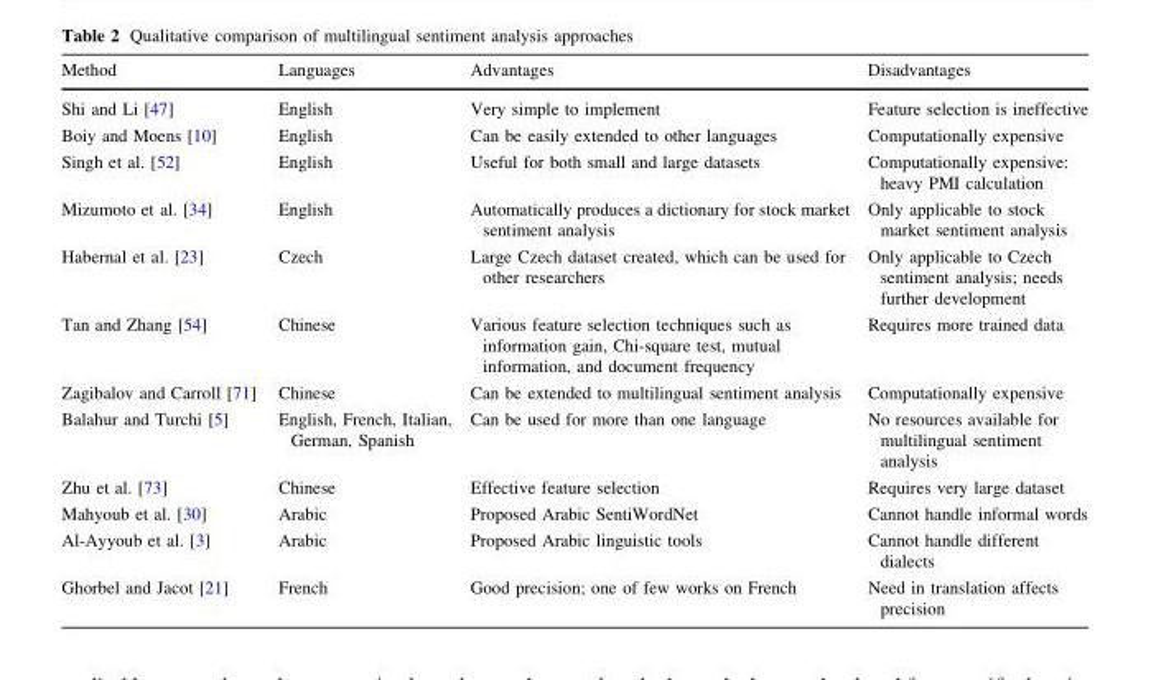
<table><thead><tr><td>Method</td><td>Languages</td><td>Advantages</td><td>Disadvantages</td></tr></thead><tbody><tr><td>Shi and Li [47]</td><td>English</td><td>Very simple to implement</td><td>Feature selection is ineffective</td></tr><tr><td>Boiy and Moens [10]</td><td>English</td><td>Can be easily extended to other languages</td><td>Computationally expensive</td></tr><tr><td>Singh et al. [52]</td><td>English</td><td>Useful for both small and large datasets</td><td>Computationally expensive: heavy PMI calculation</td></tr><tr><td>Mizumoto et al. [34]</td><td>English</td><td>Automatically produces a dictionary for stock market sentiment analysis</td><td>Only applicable to stock market sentiment analysis</td></tr><tr><td>Habernal et al. [23]</td><td>Czech</td><td>Large Czech dataset created, which can be used for other researchers</td><td>Only applicable to Czech sentiment analysis; needs further development</td></tr><tr><td>Tan and Zhang [54]</td><td>Chinese</td><td>Various feature selection techniques such as information gain, Chi-square test, mutual information, and document frequency</td><td>Requires more trained data</td></tr><tr><td>Zagibalov and Carroll [71]</td><td>Chinese</td><td>Can be extended to multilingual sentiment analysis</td><td>Computationally expensive</td></tr><tr><td>Balahur and Turchi [5]</td><td>English, French, Italian, German, Spanish</td><td>Can be used for more than one language</td><td>No resources available for multilingual sentiment analysis</td></tr><tr><td>Zhu et al. [73]</td><td>Chinese</td><td>Effective feature selection</td><td>Requires very large dataset</td></tr><tr><td>Mahyoub et al. [30]</td><td>Arabic</td><td>Proposed Arabic SentiWordNet</td><td>Cannot handle informal words</td></tr><tr><td>Al-Ayyoub et al. [3]</td><td>Arabic</td><td>Proposed Arabic linguistic tools</td><td>Cannot handle different dialects</td></tr><tr><td>Ghorbel and Jacot [21]</td><td>French</td><td>Good precision; one of few works on French</td><td>Need in translation affects precision</td></tr></tbody></table>